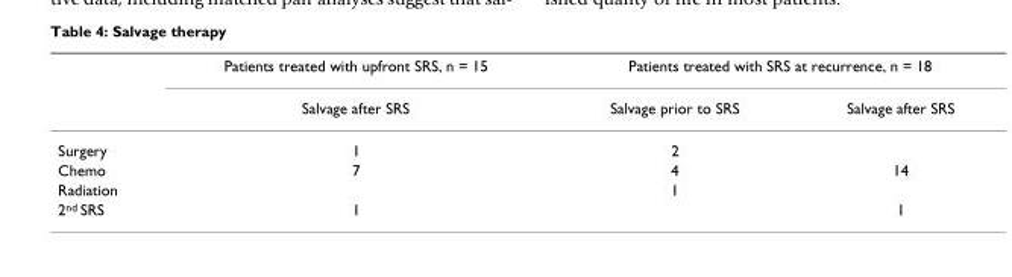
<table><thead><tr><td rowspan="2"></td><td rowspan="2">Patients treated with upfront SRS, n = 15 Salvage after SRS</td><td colspan="2">Patients treated with SRS at recurrence, n = 18</td></tr><tr><td>Salvage prior to SRS</td><td>Salvage after SRS</td></tr></thead><tbody><tr><td>Surgery</td><td>1</td><td>2</td><td></td></tr><tr><td>Chemo</td><td>7</td><td>4</td><td>14</td></tr><tr><td>Radiation</td><td></td><td>1</td><td></td></tr><tr><td>2<sup>nd</sup> SRS</td><td>1</td><td></td><td>1</td></tr></tbody></table>